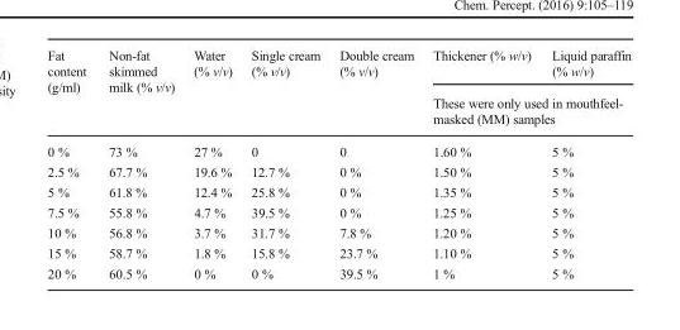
<table><thead><tr><td rowspan="2">Fat content (g/ml)</td><td rowspan="2">Non-fat skimmed milk (% v/v)</td><td rowspan="2">Water (% v/v)</td><td rowspan="2">Single cream (% v/v)</td><td rowspan="2">Double cream (% v/v)</td><td>Thickener (% w/v)</td><td>Liquid paraffin (% w/v)</td></tr><tr><td colspan="2">These were only used in mouthfeel- masked (MM) samples</td></tr></thead><tbody><tr><td>0 %</td><td>73 %</td><td>27 %</td><td>0</td><td>0</td><td>1.60 %</td><td>5 %</td></tr><tr><td>2.5 %</td><td>67.7 %</td><td>19.6 %</td><td>12.7 %</td><td>0 %</td><td>1.50 %</td><td>5 %</td></tr><tr><td>5 %</td><td>61.8 %</td><td>12.4 %</td><td>25.8 %</td><td>0 %</td><td>1.35 %</td><td>5 %</td></tr><tr><td>7.5 %</td><td>55.8 %</td><td>4.7 %</td><td>39.5 %</td><td>0 %</td><td>1.25 %</td><td>5 %</td></tr><tr><td>10 %</td><td>56.8 %</td><td>3.7 %</td><td>31.7 %</td><td>7.8 %</td><td>1.20 %</td><td>5 %</td></tr><tr><td>15 %</td><td>58.7 %</td><td>1.8 %</td><td>15.8 %</td><td>23.7 %</td><td>1.10 %</td><td>5 %</td></tr><tr><td>20 %</td><td>60.5 %</td><td>0 %</td><td>0 %</td><td>39.5 %</td><td>1 %</td><td>5 %</td></tr></tbody></table>